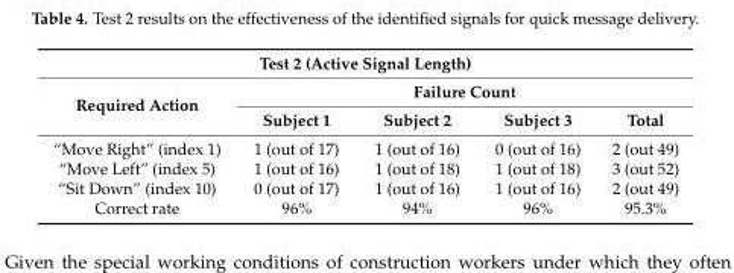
<table><thead><tr><td colspan="5">Test 2 (Active Signal Length)</td></tr><tr><td rowspan="2">Required Action</td><td colspan="4">Failure Count</td></tr><tr><td>Subject 1</td><td>Subject 2</td><td>Subject 3</td><td>Total</td></tr></thead><tbody><tr><td>“Move Right” (index 1)</td><td>1 (out of 17)</td><td>1 (out of 16)</td><td>0 (out of 16)</td><td>2 (out 49)</td></tr><tr><td>“Move Left” (index 5)</td><td>1 (out of 16)</td><td>1 (out of 18)</td><td>1 (out of 18)</td><td>3 (out 52)</td></tr><tr><td>“Sit Down” (index 10)</td><td>0 (out of 17)</td><td>1 (out of 16)</td><td>1 (out of 16)</td><td>2 (out 49)</td></tr><tr><td>Correct rate</td><td>96%</td><td>94%</td><td>96%</td><td>95.3%</td></tr></tbody></table>